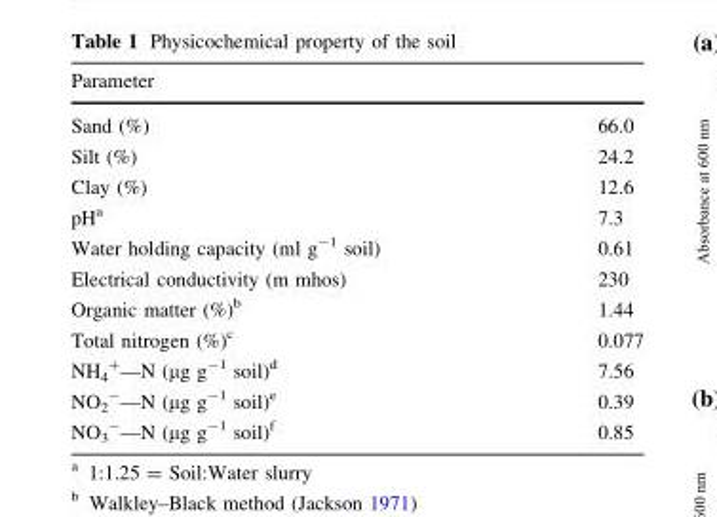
<table><thead><tr><td colspan="2">Parameter</td></tr><tr><td>Sand (%)</td><td>66.0</td></tr></thead><tbody><tr><td>Silt (%)</td><td>24.2</td></tr><tr><td>Clay (%)</td><td>12.6</td></tr><tr><td>pH<sup>a</sup></td><td>7.3</td></tr><tr><td>Water holding capacity (ml g<sup>-1</sup> soil)</td><td>0.61</td></tr><tr><td>Electrical conductivity (m mhos)</td><td>230</td></tr><tr><td>Organic matter (%)<sup>b</sup></td><td>1.44</td></tr><tr><td>Total nitrogen (%)<sup>c</sup></td><td>0.077</td></tr><tr><td>NH<sub>4</sub> <sup>+</sup>—N (µg g<sup>-1</sup> soil)<sup>d</sup></td><td>7.56</td></tr><tr><td>NO<sub>2</sub> <sup>-</sup>—N (µg g<sup>-1</sup> soil)<sup>e</sup></td><td>0.39</td></tr><tr><td>NO<sub>3</sub> <sup>-</sup>—N (µg g<sup>-1</sup> soil)<sup>f</sup></td><td>0.85</td></tr></tbody></table>